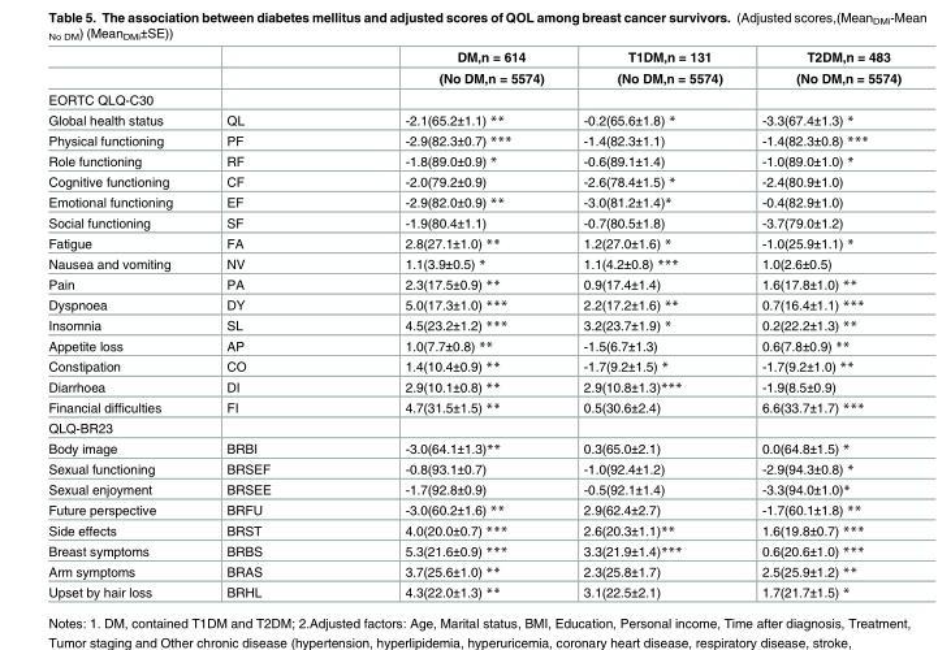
<table><thead><tr><td rowspan="2"></td><td rowspan="2"></td><td rowspan="2">DM,n = 614 (No DM,n = 5574)</td><td rowspan="2">T1DM,n = 131 (No DM,n = 5574)</td><td rowspan="2">T2DM,n = 483 (No DM,n = 5574)</td></tr><tr></tr></thead><tbody><tr><td colspan="5">EORTC QLQ-C30</td></tr><tr><td>Global health status</td><td>QL</td><td>-2.1(65.2±1.1) **</td><td>-0.2(65.6±1.8) *</td><td>-3.3(67.4±1.3) *</td></tr><tr><td>Physical functioning</td><td>PF</td><td>-2.9(82.3±0.7) ***</td><td>-1.4(82.3±1.1)</td><td>-1.4(82.3±0.8) ***</td></tr><tr><td>Role functioning</td><td>RF</td><td>-1.8(89.0±0.9) *</td><td>-0.6(89.1±1.4)</td><td>-1.0(89.0±1.0) *</td></tr><tr><td>Cognitive functioning</td><td>CF</td><td>-2.0(79.2±0.9)</td><td>-2.6(78.4±1.5) *</td><td>-2.4(80.9±1.0)</td></tr><tr><td>Emotional functioning</td><td>EF</td><td>-2.9(82.0±0.9) **</td><td>-3.0(81.2±1.4)*</td><td>-0.4(82.9±1.0)</td></tr><tr><td>Social functioning</td><td>SF</td><td>-1.9(80.4±1.1)</td><td>-0.7(80.5±1.8)</td><td>-3.7(79.0±1.2)</td></tr><tr><td>Fatigue</td><td>FA</td><td>2.8(27.1±1.0) **</td><td>1.2(27.0±1.6) *</td><td>-1.0(25.9±1.1) *</td></tr><tr><td>Nausea and vomiting</td><td>NV</td><td>1.1(3.9±0.5) *</td><td>1.1(4.2±0.8) ***</td><td>1.0(2.6±0.5)</td></tr><tr><td>Pain</td><td>PA</td><td>2.3(17.5±0.9) **</td><td>0.9(17.4±1.4)</td><td>1.6(17.8±1.0) **</td></tr><tr><td>Dyspnoea</td><td>DY</td><td>5.0(17.3±1.0) ***</td><td>2.2(17.2±1.6) **</td><td>0.7(16.4±1.1) ***</td></tr><tr><td>Insomnia</td><td>SL</td><td>4.5(23.2±1.2) ***</td><td>3.2(23.7±1.9) *</td><td>0.2(22.2±1.3) **</td></tr><tr><td>Appetite loss</td><td>AP</td><td>1.0(7.7±0.8) **</td><td>-1.5(6.7±1.3)</td><td>0.6(7.8±0.9) **</td></tr><tr><td>Constipation</td><td>CO</td><td>1.4(10.4±0.9) **</td><td>-1.7(9.2±1.5) *</td><td>-1.7(9.2±1.0) **</td></tr><tr><td>Diarrhoea</td><td>DI</td><td>2.9(10.1±0.8) **</td><td>2.9(10.8±1.3)***</td><td>-1.9(8.5±0.9)</td></tr><tr><td>Financial difficulties</td><td>FI</td><td>4.7(31.5±1.5) **</td><td>0.5(30.6±2.4)</td><td>6.6(33.7±1.7) ***</td></tr><tr><td colspan="5">QLQ-BR23</td></tr><tr><td>Body image</td><td>BRBI</td><td>-3.0(64.1±1.3)**</td><td>0.3(65.0±2.1)</td><td>0.0(64.8±1.5) *</td></tr><tr><td>Sexual functioning</td><td>BRSEF</td><td>-0.8(93.1±0.7)</td><td>-1.0(92.4±1.2)</td><td>-2.9(94.3±0.8) *</td></tr><tr><td>Sexual enjoyment</td><td>BRSEE</td><td>-1.7(92.8±0.9)</td><td>-0.5(92.1±1.4)</td><td>-3.3(94.0±1.0)*</td></tr><tr><td>Future perspective</td><td>BRFU</td><td>-3.0(60.2±1.6) **</td><td>2.9(62.4±2.7)</td><td>-1.7(60.1±1.8) **</td></tr><tr><td>Side effects</td><td>BRST</td><td>4.0(20.0±0.7) ***</td><td>2.6(20.3±1.1)**</td><td>1.6(19.8±0.7) ***</td></tr><tr><td>Breast symptoms</td><td>BRBS</td><td>5.3(21.6±0.9) ***</td><td>3.3(21.9±1.4)***</td><td>0.6(20.6±1.0) ***</td></tr><tr><td>Arm symptoms</td><td>BRAS</td><td>3.7(25.6±1.0) **</td><td>2.3(25.8±1.7)</td><td>2.5(25.9±1.2) **</td></tr><tr><td>Upset by hair loss</td><td>BRHL</td><td>4.3(22.0±1.3) **</td><td>3.1(22.5±2.1)</td><td>1.7(21.7±1.5) *</td></tr></tbody></table>